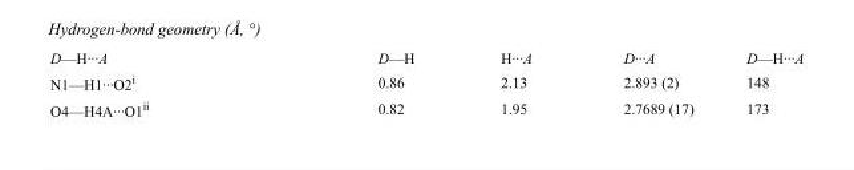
<table><tbody><tr><td>D—H···A</td><td>D—H</td><td>H···A</td><td>D···A</td><td>D—H···A</td></tr><tr><td>N1—H1···O2<sup>i</sup></td><td>0.86</td><td>2.13</td><td>2.893 (2)</td><td>148</td></tr><tr><td>O4—H4A···O1<sup>ii</sup></td><td>0.82</td><td>1.95</td><td>2.7689 (17)</td><td>173</td></tr></tbody></table>